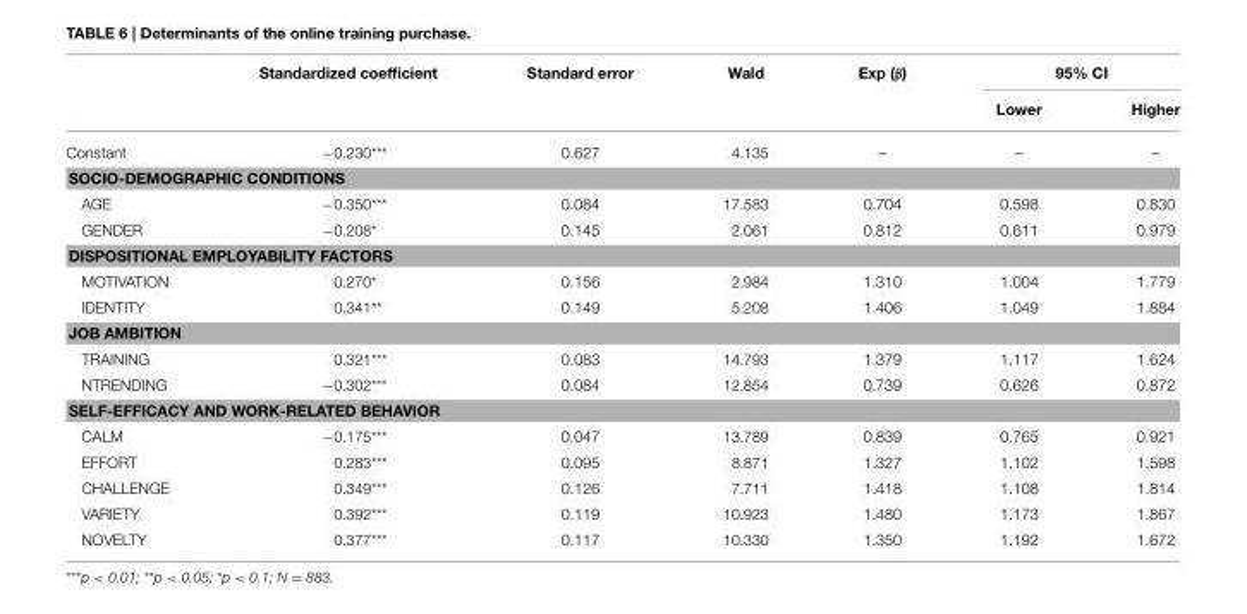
<table><thead><tr><td rowspan="2"></td><td rowspan="2">Standardized coefficient</td><td rowspan="2">Standard error</td><td rowspan="2">Wald</td><td rowspan="2">Exp (β)</td><td colspan="2">95% CI</td></tr><tr><td>Lower</td><td>Higher</td></tr></thead><tbody><tr><td>Constant</td><td>−0.230***</td><td>0.627</td><td>4.135</td><td>–</td><td>–</td><td>–</td></tr><tr><td colspan="7">SOCIO-DEMOGRAPHIC CONDITIONS</td></tr><tr><td>AGE</td><td>−0.350***</td><td>0.084</td><td>17.583</td><td>0.704</td><td>0.598</td><td>0.830</td></tr><tr><td>GENDER</td><td>−0.208*</td><td>0.145</td><td>2.061</td><td>0.812</td><td>0.611</td><td>0.979</td></tr><tr><td colspan="7">DISPOSITIONAL EMPLOYABILITY FACTORS</td></tr><tr><td>MOTIVATION</td><td>0.270*</td><td>0.156</td><td>2.984</td><td>1.310</td><td>1.004</td><td>1.779</td></tr><tr><td>IDENTITY</td><td>0.341**</td><td>0.149</td><td>5.208</td><td>1.406</td><td>1.049</td><td>1.884</td></tr><tr><td colspan="7">JOB AMBITION</td></tr><tr><td>TRAINING</td><td>0.321***</td><td>0.083</td><td>14.793</td><td>1.379</td><td>1.117</td><td>1.624</td></tr><tr><td>NTRENDING</td><td>−0.302***</td><td>0.084</td><td>12.854</td><td>0.739</td><td>0.626</td><td>0.872</td></tr><tr><td colspan="7">SELF-EFFICACY AND WORK-RELATED BEHAVIOR</td></tr><tr><td>CALM</td><td>−0.175***</td><td>0.047</td><td>13.789</td><td>0.839</td><td>0.765</td><td>0.921</td></tr><tr><td>EFFORT</td><td>0.283***</td><td>0.095</td><td>8.871</td><td>1.327</td><td>1.102</td><td>1.598</td></tr><tr><td>CHALLENGE</td><td>0.349***</td><td>0.126</td><td>7.711</td><td>1.418</td><td>1.108</td><td>1.814</td></tr><tr><td>VARIETY</td><td>0.392***</td><td>0.119</td><td>10.923</td><td>1.480</td><td>1.173</td><td>1.867</td></tr><tr><td>NOVELTY</td><td>0.377***</td><td>0.117</td><td>10.330</td><td>1.350</td><td>1.192</td><td>1.672</td></tr></tbody></table>